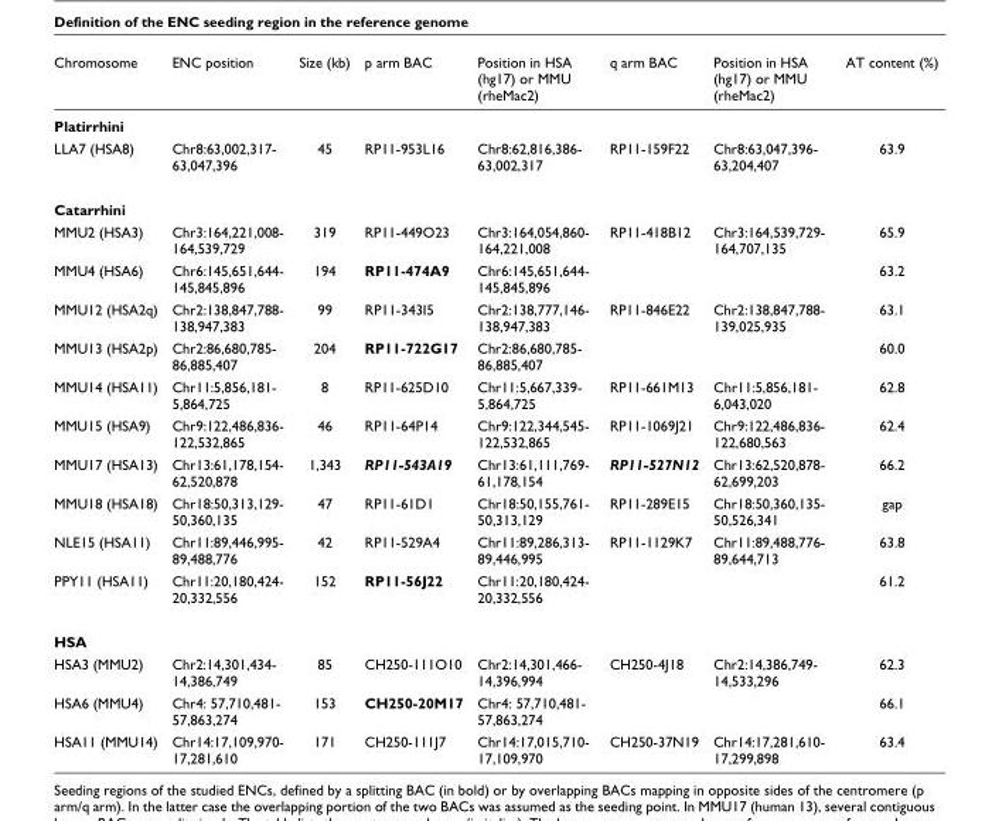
<table><thead><tr><td>Chromosome</td><td>ENC position</td><td>Size (kb)</td><td>p arm BAC</td><td>Position in HSA (hg17) or MMU (rheMac2)</td><td>q arm BAC</td><td>Position in HSA (hg17) or MMU (rheMac2)</td><td>AT content (%)</td></tr></thead><tbody><tr><td colspan="8">Platirrhini</td></tr><tr><td>LLA7 (HSA8)</td><td>Chr8:63,002,317- 63,047,396</td><td>45</td><td>RP11-953L16</td><td>Chr8:62,816,386- 63,002,317</td><td>RP11-159F22</td><td>Chr8:63,047,396- 63,204,407</td><td>63.9</td></tr><tr><td colspan="8">Catarrhini</td></tr><tr><td>MMU2 (HSA3)</td><td>Chr3:164,221,008- 164,539,729</td><td>319</td><td>RP11-449O23</td><td>Chr3:164,054,860- 164,221,008</td><td>RP11-418B12</td><td>Chr3:164,539,729- 164,707,135</td><td>65.9</td></tr><tr><td>MMU4 (HSA6)</td><td>Chr6:145,651,644- 145,845,896</td><td>194</td><td>RP11-474A9</td><td>Chr6:145,651,644- 145,845,896</td><td></td><td></td><td>63.2</td></tr><tr><td>MMU12 (HSA2q)</td><td>Chr2:138,847,788- 138,947,383</td><td>99</td><td>RP11-343I5</td><td>Chr2:138,777,146- 138,947,383</td><td>RP11-846E22</td><td>Chr2:138,847,788- 139,025,935</td><td>63.1</td></tr><tr><td>MMU13 (HSA2p)</td><td>Chr2:86,680,785- 86,885,407</td><td>204</td><td>RP11-722G17</td><td>Chr2:86,680,785- 86,885,407</td><td></td><td></td><td>60.0</td></tr><tr><td>MMU14 (HSA11)</td><td>Chr11:5,856,181- 5,864,725</td><td>8</td><td>RP11-625D10</td><td>Chr11:5,667,339- 5,864,725</td><td>RP11-661M13</td><td>Chr11:5,856,181- 6,043,020</td><td>62.8</td></tr><tr><td>MMU15 (HSA9)</td><td>Chr9:122,486,836- 122,532,865</td><td>46</td><td>RP11-64P14</td><td>Chr9:122,344,545- 122,532,865</td><td>RP11-1069J21</td><td>Chr9:122,486,836- 122,680,563</td><td>62.4</td></tr><tr><td>MMU17 (HSA13)</td><td>Chr13:61,178,154- 62,520,878</td><td>1,343</td><td>RP11-543A19</td><td>Chr13:61,111,769- 61,178,154</td><td>RP11-527N12</td><td>Chr13:62,520,878- 62,699,203</td><td>66.2</td></tr><tr><td>MMU18 (HSA18)</td><td>Chr18:50,313,129- 50,360,135</td><td>47</td><td>RP11-61D1</td><td>Chr18:50,155,761- 50,313,129</td><td>RP11-289E15</td><td>Chr18:50,360,135- 50,526,341</td><td>gap</td></tr><tr><td>NLE15 (HSA11)</td><td>Chr11:89,446,995- 89,488,776</td><td>42</td><td>RP11-529A4</td><td>Chr11:89,286,313- 89,446,995</td><td>RP11-1129K7</td><td>Chr11:89,488,776- 89,644,713</td><td>63.8</td></tr><tr><td>PPY11 (HSA11)</td><td>Chr11:20,180,424- 20,332,556</td><td>152</td><td>RP11-56J22</td><td>Chr11:20,180,424- 20,332,556</td><td></td><td></td><td>61.2</td></tr><tr><td colspan="8">HSA</td></tr><tr><td>HSA3 (MMU2)</td><td>Chr2:14,301,434- 14,386,749</td><td>85</td><td>CH250-111O10</td><td>Chr2:14,301,466- 14,396,994</td><td>CH250-4J18</td><td>Chr2:14,386,749- 14,533,296</td><td>62.3</td></tr><tr><td>HSA6 (MMU4)</td><td>Chr4: 57,710,481- 57,863,274</td><td>153</td><td>CH250-20M17</td><td>Chr4: 57,710,481- 57,863,274</td><td></td><td></td><td>66.1</td></tr><tr><td>HSA11 (MMU14)</td><td>Chr14:17,109,970- 17,281,610</td><td>171</td><td>CH250-111J7</td><td>Chr14:17,015,710- 17,109,970</td><td>CH250-37N19</td><td>Chr14:17,281,610- 17,299,898</td><td>63.4</td></tr></tbody></table>